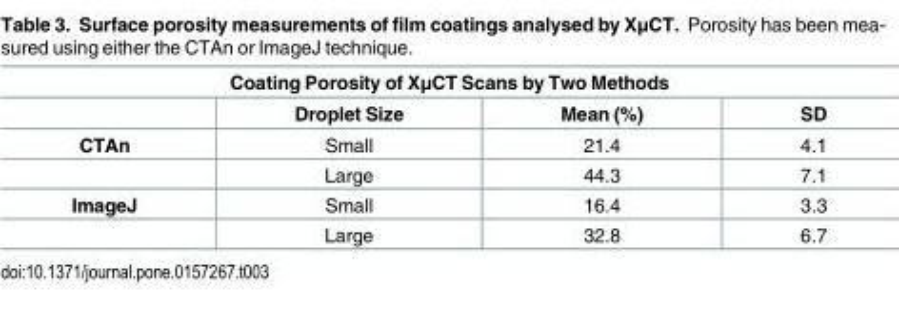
<table><thead><tr><td colspan="4">Coating Porosity of XμCT Scans by Two Methods</td></tr><tr><td></td><td>Droplet Size</td><td>Mean (%)</td><td>SD</td></tr></thead><tbody><tr><td rowspan="2">CTAn</td><td>Small</td><td>21.4</td><td>4.1</td></tr><tr><td>Large</td><td>44.3</td><td>7.1</td></tr><tr><td rowspan="2">ImageJ</td><td>Small</td><td>16.4</td><td>3.3</td></tr><tr><td>Large</td><td>32.8</td><td>6.7</td></tr></tbody></table>